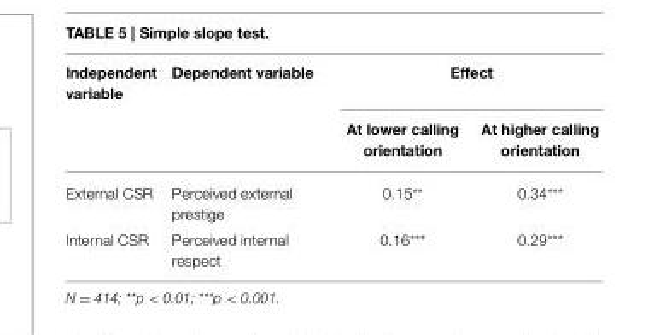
<table><thead><tr><td rowspan="2">Independent variable</td><td rowspan="2">Dependent variable</td><td colspan="2">Effect</td></tr><tr><td>At lower calling orientation</td><td>At higher calling orientation</td></tr></thead><tbody><tr><td>External CSR</td><td>Perceived external prestige</td><td>0.15**</td><td>0.34***</td></tr><tr><td>Internal CSR</td><td>Perceived internal respect</td><td>0.16***</td><td>0.29***</td></tr></tbody></table>